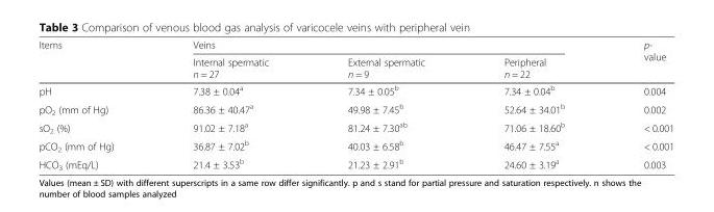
<table><thead><tr><td rowspan="2">Items</td><td colspan="3">Veins</td><td rowspan="2">p- value</td></tr><tr><td>Internal spermatic n = 27</td><td>External spermatic n = 9</td><td>Peripheral n = 22</td></tr></thead><tbody><tr><td>pH</td><td>7.38 ± 0.04<sup>a</sup></td><td>7.34 ± 0.05<sup>b</sup></td><td>7.34 ± 0.04<sup>b</sup></td><td>0.004</td></tr><tr><td>pO<sub>2</sub> (mm of Hg)</td><td>86.36 ± 40.47<sup>a</sup></td><td>49.98 ± 7.45<sup>b</sup></td><td>52.64 ± 34.01<sup>b</sup></td><td>0.002</td></tr><tr><td>sO<sub>2</sub> (%)</td><td>91.02 ± 7.18<sup>a</sup></td><td>81.24 ± 7.30<sup>ab</sup></td><td>71.06 ± 18.60<sup>b</sup></td><td>&lt; 0.001</td></tr><tr><td>pCO<sub>2</sub> (mm of Hg)</td><td>36.87 ± 7.02<sup>b</sup></td><td>40.03 ± 6.58<sup>b</sup></td><td>46.47 ± 7.55<sup>a</sup></td><td>&lt; 0.001</td></tr><tr><td>HCO<sub>3</sub> (mEq/L)</td><td>21.4 ± 3.53<sup>b</sup></td><td>21.23 ± 2.91<sup>b</sup></td><td>24.60 ± 3.19<sup>a</sup></td><td>0.003</td></tr></tbody></table>